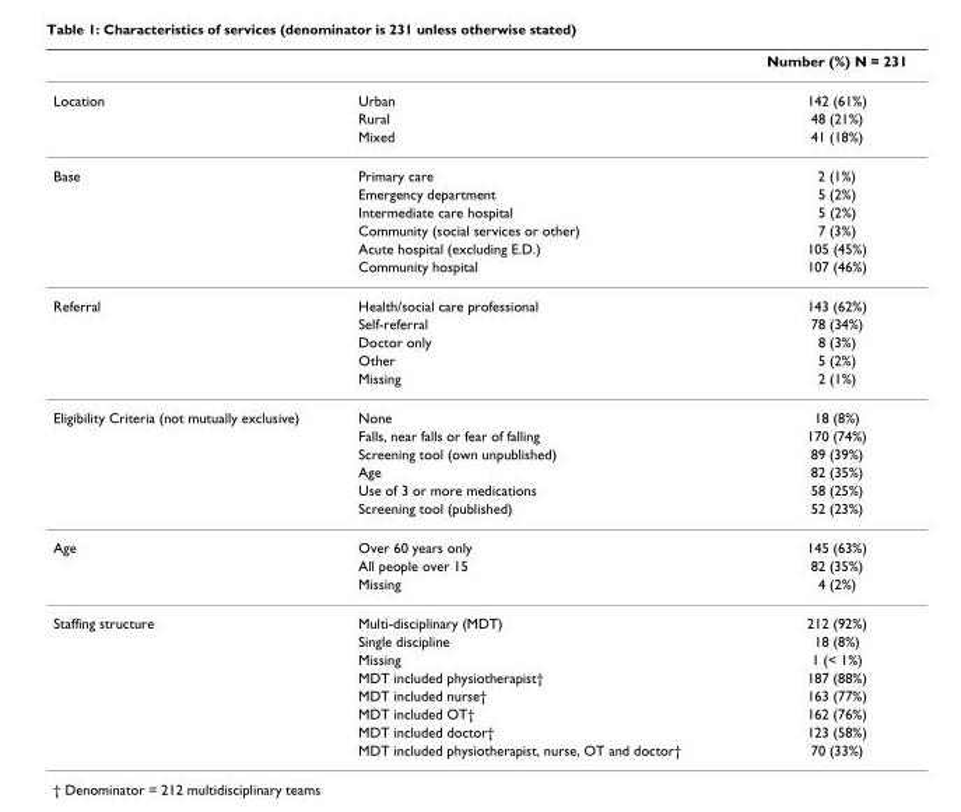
<table><thead><tr><td></td><td></td><td>Number (%) N = 231</td></tr></thead><tbody><tr><td rowspan="3">Location</td><td>Urban</td><td>142 (61%)</td></tr><tr><td>Rural</td><td>48 (21%)</td></tr><tr><td>Mixed</td><td>41 (18%)</td></tr><tr><td rowspan="6">Base</td><td>Primary care</td><td>2 (1%)</td></tr><tr><td>Emergency department</td><td>5 (2%)</td></tr><tr><td>Intermediate care hospital</td><td>5 (2%)</td></tr><tr><td>Community (social services or other)</td><td>7 (3%)</td></tr><tr><td>Acute hospital (excluding E.D.)</td><td>105 (45%)</td></tr><tr><td>Community hospital</td><td>107 (46%)</td></tr><tr><td rowspan="5">Referral</td><td>Health/social care professional</td><td>143 (62%)</td></tr><tr><td>Self-referral</td><td>78 (34%)</td></tr><tr><td>Doctor only</td><td>8 (3%)</td></tr><tr><td>Other</td><td>5 (2%)</td></tr><tr><td>Missing</td><td>2 (1%)</td></tr><tr><td rowspan="6">Eligibility Criteria (not mutually exclusive)</td><td>None</td><td>18 (8%)</td></tr><tr><td>Falls, near falls or fear of falling</td><td>170 (74%)</td></tr><tr><td>Screening tool (own unpublished)</td><td>89 (39%)</td></tr><tr><td>Age</td><td>82 (35%)</td></tr><tr><td>Use of 3 or more medications</td><td>58 (25%)</td></tr><tr><td>Screening tool (published)</td><td>52 (23%)</td></tr><tr><td rowspan="3">Age</td><td>Over 60 years only</td><td>145 (63%)</td></tr><tr><td>All people over 15</td><td>82 (35%)</td></tr><tr><td>Missing</td><td>4 (2%)</td></tr><tr><td rowspan="8">Staffing structure</td><td>Multi-disciplinary (MDT)</td><td>212 (92%)</td></tr><tr><td>Single discipline</td><td>18 (8%)</td></tr><tr><td>Missing</td><td>1 (&lt; 1%)</td></tr><tr><td>MDT included physiotherapist†</td><td>187 (88%)</td></tr><tr><td>MDT included nurse†</td><td>163 (77%)</td></tr><tr><td>MDT included OT†</td><td>162 (76%)</td></tr><tr><td>MDT included doctor†</td><td>123 (58%)</td></tr><tr><td>MDT included physiotherapist, nurse, OT and doctor†</td><td>70 (33%)</td></tr></tbody></table>